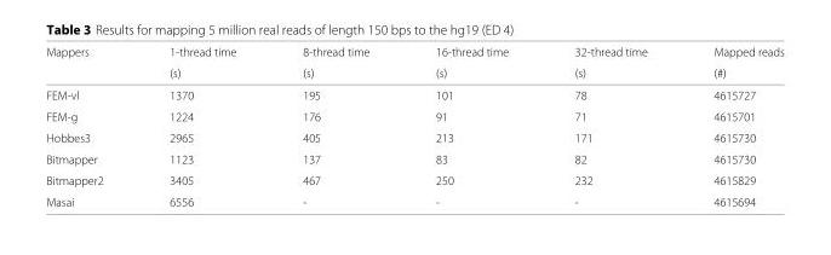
<table><thead><tr><td rowspan="2">Mappers</td><td rowspan="2">1-thread time (s)</td><td rowspan="2">8-thread time (s)</td><td rowspan="2">16-thread time (s)</td><td rowspan="2">32-thread time (s)</td><td rowspan="2">Mapped reads (#)</td></tr><tr></tr></thead><tbody><tr><td>FEM-vl</td><td>1370</td><td>195</td><td>101</td><td>78</td><td>4615727</td></tr><tr><td>FEM-g</td><td>1224</td><td>176</td><td>91</td><td>71</td><td>4615701</td></tr><tr><td>Hobbes3</td><td>2965</td><td>405</td><td>213</td><td>171</td><td>4615730</td></tr><tr><td>Bitmapper</td><td>1123</td><td>137</td><td>83</td><td>82</td><td>4615730</td></tr><tr><td>Bitmapper2</td><td>3405</td><td>467</td><td>250</td><td>232</td><td>4615829</td></tr><tr><td>Masai</td><td>6556</td><td>-</td><td>-</td><td>-</td><td>4615694</td></tr></tbody></table>